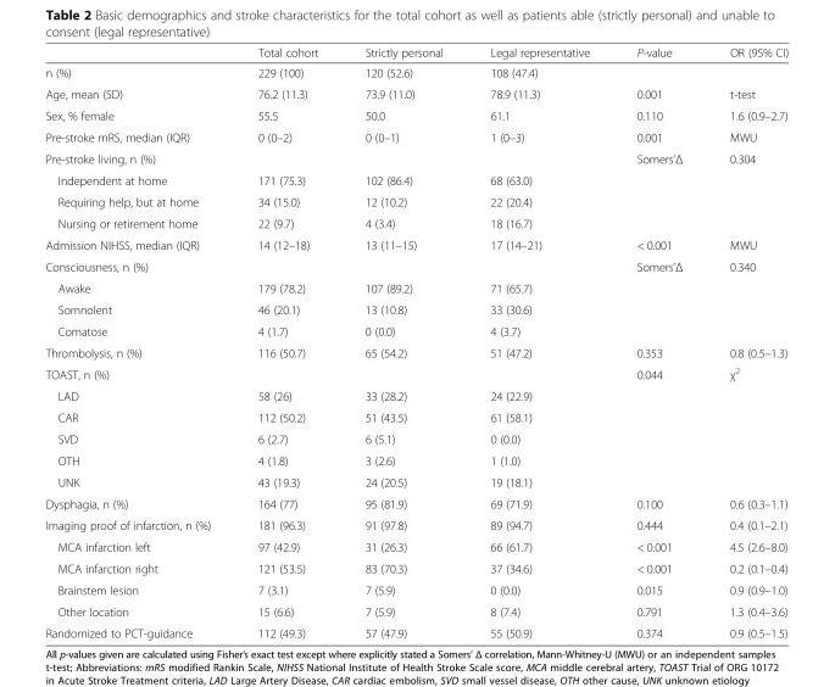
<table><thead><tr><td></td><td>Total cohort</td><td>Strictly personal</td><td>Legal representative</td><td>P-value</td><td>OR (95% CI)</td></tr></thead><tbody><tr><td>n (%)</td><td>229 (100)</td><td>120 (52.6)</td><td>108 (47.4)</td><td></td><td></td></tr><tr><td>Age, mean (SD)</td><td>76.2 (11.3)</td><td>73.9 (11.0)</td><td>78.9 (11.3)</td><td>0.001</td><td>t-test</td></tr><tr><td>Sex, % female</td><td>55.5</td><td>50.0</td><td>61.1</td><td>0.110</td><td>1.6 (0.9–2.7)</td></tr><tr><td>Pre-stroke mRS, median (IQR)</td><td>0 (0–2)</td><td>0 (0–1)</td><td>1 (0–3)</td><td>0.001</td><td>MWU</td></tr><tr><td>Pre-stroke living, n (%)</td><td></td><td></td><td></td><td>Somers‘Δ</td><td>0.304</td></tr><tr><td>Independent at home</td><td>171 (75.3)</td><td>102 (86.4)</td><td>68 (63.0)</td><td></td><td></td></tr><tr><td>Requiring help, but at home</td><td>34 (15.0)</td><td>12 (10.2)</td><td>22 (20.4)</td><td></td><td></td></tr><tr><td>Nursing or retirement home</td><td>22 (9.7)</td><td>4 (3.4)</td><td>18 (16.7)</td><td></td><td></td></tr><tr><td>Admission NIHSS, median (IQR)</td><td>14 (12–18)</td><td>13 (11–15)</td><td>17 (14–21)</td><td>&lt; 0.001</td><td>MWU</td></tr><tr><td>Consciousness, n (%)</td><td></td><td></td><td></td><td>Somers’Δ</td><td>0.340</td></tr><tr><td>Awake</td><td>179 (78.2)</td><td>107 (89.2)</td><td>71 (65.7)</td><td></td><td></td></tr><tr><td>Somnolent</td><td>46 (20.1)</td><td>13 (10.8)</td><td>33 (30.6)</td><td></td><td></td></tr><tr><td>Comatose</td><td>4 (1.7)</td><td>0 (0.0)</td><td>4 (3.7)</td><td></td><td></td></tr><tr><td>Thrombolysis, n (%)</td><td>116 (50.7)</td><td>65 (54.2)</td><td>51 (47.2)</td><td>0.353</td><td>0.8 (0.5–1.3)</td></tr><tr><td>TOAST, n (%)</td><td></td><td></td><td></td><td>0.044</td><td>χ<sup>2</sup></td></tr><tr><td>LAD</td><td>58 (26)</td><td>33 (28.2)</td><td>24 (22.9)</td><td></td><td></td></tr><tr><td>CAR</td><td>112 (50.2)</td><td>51 (43.5)</td><td>61 (58.1)</td><td></td><td></td></tr><tr><td>SVD</td><td>6 (2.7)</td><td>6 (5.1)</td><td>0 (0.0)</td><td></td><td></td></tr><tr><td>OTH</td><td>4 (1.8)</td><td>3 (2.6)</td><td>1 (1.0)</td><td></td><td></td></tr><tr><td>UNK</td><td>43 (19.3)</td><td>24 (20.5)</td><td>19 (18.1)</td><td></td><td></td></tr><tr><td>Dysphagia, n (%)</td><td>164 (77)</td><td>95 (81.9)</td><td>69 (71.9)</td><td>0.100</td><td>0.6 (0.3–1.1)</td></tr><tr><td>Imaging proof of infarction, n (%)</td><td>181 (96.3)</td><td>91 (97.8)</td><td>89 (94.7)</td><td>0.444</td><td>0.4 (0.1–2.1)</td></tr><tr><td>MCA infarction left</td><td>97 (42.9)</td><td>31 (26.3)</td><td>66 (61.7)</td><td>&lt; 0.001</td><td>4.5 (2.6–8.0)</td></tr><tr><td>MCA infarction right</td><td>121 (53.5)</td><td>83 (70.3)</td><td>37 (34.6)</td><td>&lt; 0.001</td><td>0.2 (0.1–0.4)</td></tr><tr><td>Brainstem lesion</td><td>7 (3.1)</td><td>7 (5.9)</td><td>0 (0.0)</td><td>0.015</td><td>0.9 (0.9–1.0)</td></tr><tr><td>Other location</td><td>15 (6.6)</td><td>7 (5.9)</td><td>8 (7.4)</td><td>0.791</td><td>1.3 (0.4–3.6)</td></tr><tr><td>Randomized to PCT-guidance</td><td>112 (49.3)</td><td>57 (47.9)</td><td>55 (50.9)</td><td>0.374</td><td>0.9 (0.5–1.5)</td></tr></tbody></table>